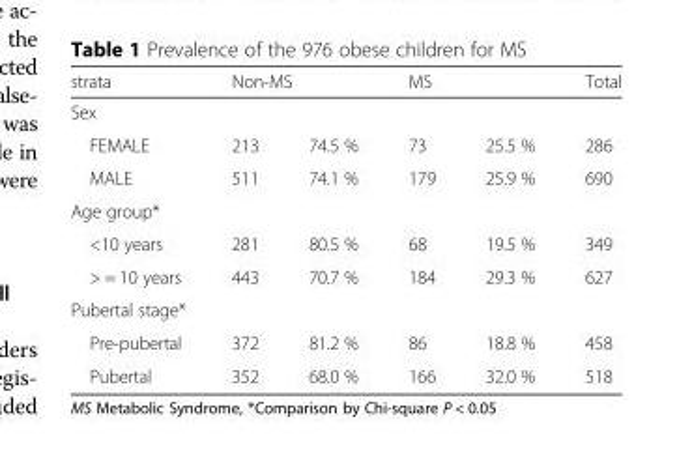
<table><thead><tr><td>strata</td><td colspan="2">Non-MS</td><td colspan="2">MS</td><td rowspan="3">Total 286</td></tr><tr><td colspan="5">Sex</td></tr><tr><td>FEMALE</td><td>213</td><td>74.5 %</td><td>73</td><td>25.5 %</td></tr></thead><tbody><tr><td>MALE</td><td>511</td><td>74.1 %</td><td>179</td><td>25.9 %</td><td>690</td></tr><tr><td colspan="6">Age group*</td></tr><tr><td>&lt;10 years</td><td>281</td><td>80.5 %</td><td>68</td><td>19.5 %</td><td>349</td></tr><tr><td>&gt; = 10 years</td><td>443</td><td>70.7 %</td><td>184</td><td>29.3 %</td><td>627</td></tr><tr><td colspan="6">Pubertal stage*</td></tr><tr><td>Pre-pubertal</td><td>372</td><td>81.2 %</td><td>86</td><td>18.8 %</td><td>458</td></tr><tr><td>Pubertal</td><td>352</td><td>68.0 %</td><td>166</td><td>32.0 %</td><td>518</td></tr></tbody></table>